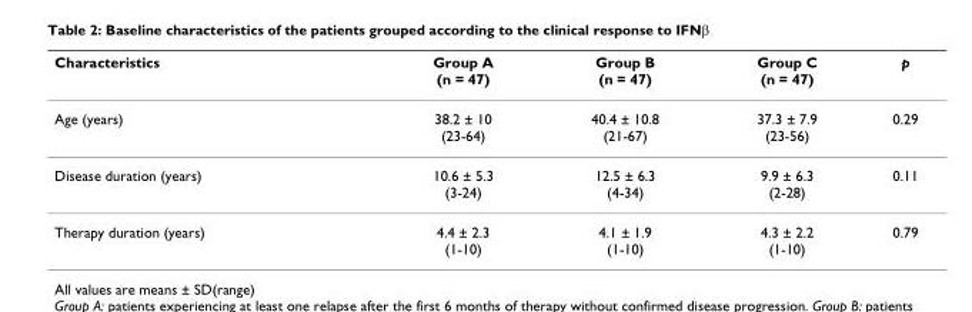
<table><thead><tr><td>Characteristics</td><td>Group A (n = 47)</td><td>Group B (n = 47)</td><td>Group C (n = 47)</td><td>p</td></tr></thead><tbody><tr><td>Age (years)</td><td>38.2 ± 10 (23-64)</td><td>40.4 ± 10.8 (21-67)</td><td>37.3 ± 7.9 (23-56)</td><td>0.29</td></tr><tr><td>Disease duration (years)</td><td>10.6 ± 5.3 (3-24)</td><td>12.5 ± 6.3 (4-34)</td><td>9.9 ± 6.3 (2-28)</td><td>0.11</td></tr><tr><td>Therapy duration (years)</td><td>4.4 ± 2.3 (1-10)</td><td>4.1 ± 1.9 (1-10)</td><td>4.3 ± 2.2 (1-10)</td><td>0.79</td></tr></tbody></table>